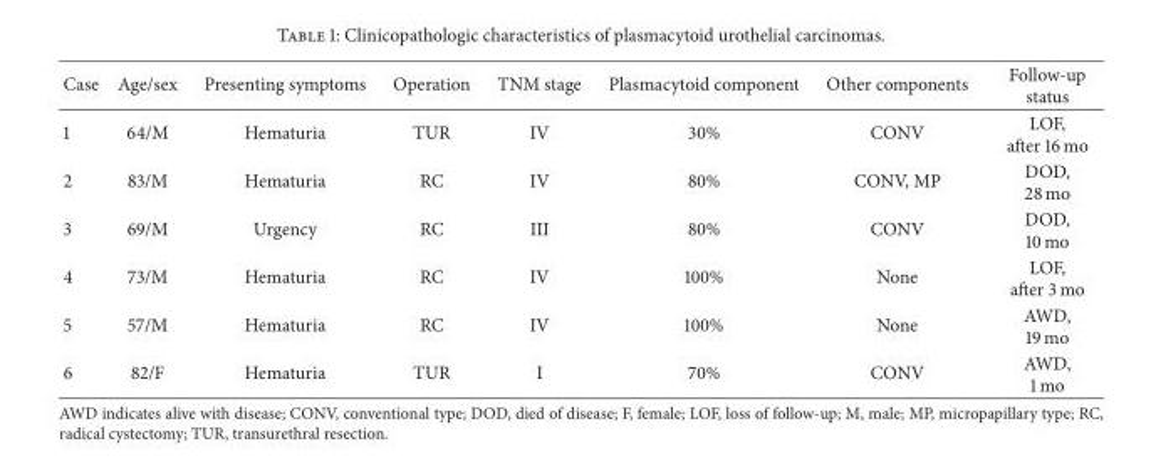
<table><thead><tr><td>Case</td><td>Age/sex</td><td>Presenting symptoms</td><td>Operation</td><td>TNM stage</td><td>Plasmacytoid component</td><td>Other components</td><td>Follow-up status</td></tr></thead><tbody><tr><td>1</td><td>64/M</td><td>Hematuria</td><td>TUR</td><td>IV</td><td>30%</td><td>CONV</td><td>LOF, after 16 mo</td></tr><tr><td>2</td><td>83/M</td><td>Hematuria</td><td>RC</td><td>IV</td><td>80%</td><td>CONV, MP</td><td>DOD, 28 mo</td></tr><tr><td>3</td><td>69/M</td><td>Urgency</td><td>RC</td><td>III</td><td>80%</td><td>CONV</td><td>DOD, 10 mo</td></tr><tr><td>4</td><td>73/M</td><td>Hematuria</td><td>RC</td><td>IV</td><td>100%</td><td>None</td><td>LOF, after 3 mo</td></tr><tr><td>5</td><td>57/M</td><td>Hematuria</td><td>RC</td><td>IV</td><td>100%</td><td>None</td><td>AWD, 19 mo</td></tr><tr><td>6</td><td>82/F</td><td>Hematuria</td><td>TUR</td><td>I</td><td>70%</td><td>CONV</td><td>AWD, 1 mo</td></tr></tbody></table>